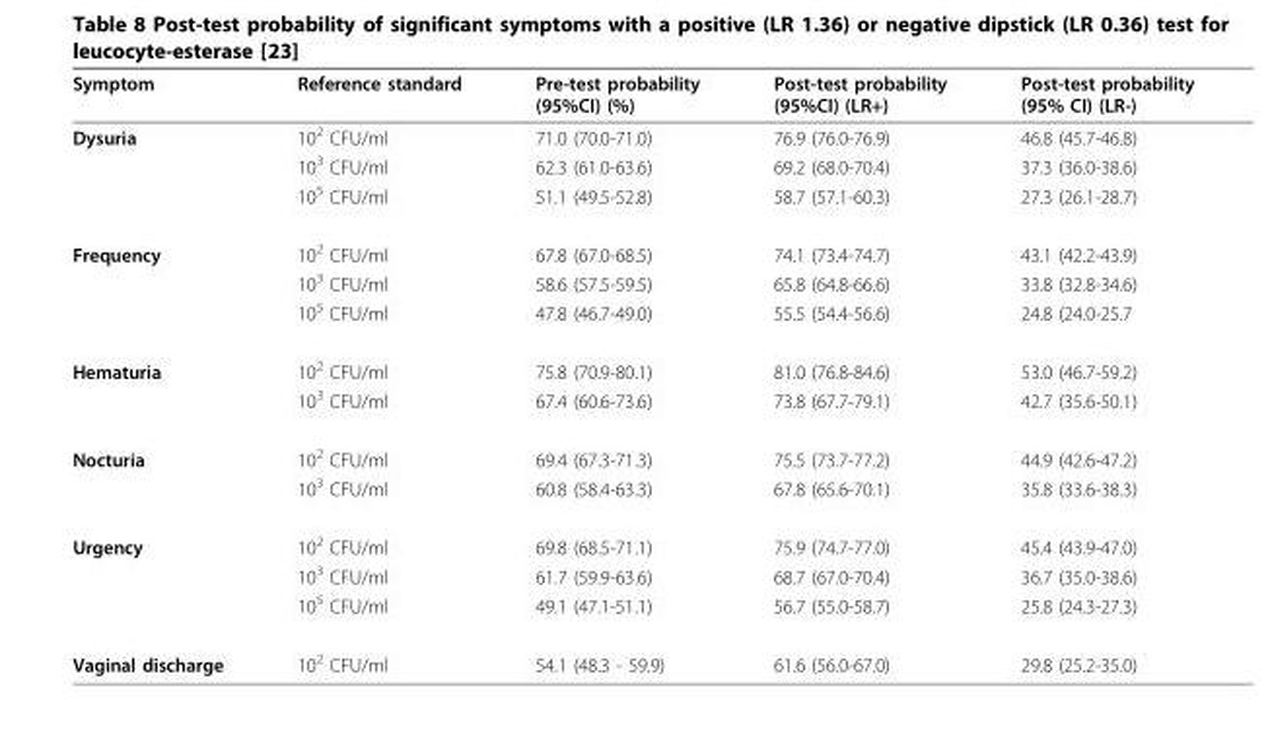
<table><thead><tr><td>Symptom</td><td>Reference standard</td><td>Pre-test probability (95%CI) (%)</td><td>Post-test probability (95%CI) (LR+)</td><td>Post-test probability (95% CI) (LR-)</td></tr></thead><tbody><tr><td rowspan="3">Dysuria</td><td>10<sup>2</sup> CFU/ml</td><td>71.0 (70.0-71.0)</td><td>76.9 (76.0-76.9)</td><td>46.8 (45.7-46.8)</td></tr><tr><td>10<sup>3</sup> CFU/ml</td><td>62.3 (61.0-63.6)</td><td>69.2 (68.0-70.4)</td><td>37.3 (36.0-38.6)</td></tr><tr><td>10<sup>5</sup> CFU/ml</td><td>51.1 (49.5-52.8)</td><td>58.7 (57.1-60.3)</td><td>27.3 (26.1-28.7)</td></tr><tr><td rowspan="3">Frequency</td><td>10<sup>2</sup> CFU/ml</td><td>67.8 (67.0-68.5)</td><td>74.1 (73.4-74.7)</td><td>43.1 (42.2-43.9)</td></tr><tr><td>10<sup>3</sup> CFU/ml</td><td>58.6 (57.5-59.5)</td><td>65.8 (64.8-66.6)</td><td>33.8 (32.8-34.6)</td></tr><tr><td>10<sup>5</sup> CFU/ml</td><td>47.8 (46.7-49.0)</td><td>55.5 (54.4-56.6)</td><td>24.8 (24.0-25.7</td></tr><tr><td rowspan="2">Hematuria</td><td>10<sup>2</sup> CFU/ml</td><td>75.8 (70.9-80.1)</td><td>81.0 (76.8-84.6)</td><td>53.0 (46.7-59.2)</td></tr><tr><td>10<sup>3</sup> CFU/ml</td><td>67.4 (60.6-73.6)</td><td>73.8 (67.7-79.1)</td><td>42.7 (35.6-50.1)</td></tr><tr><td rowspan="2">Nocturia</td><td>10<sup>2</sup> CFU/ml</td><td>69.4 (67.3-71.3)</td><td>75.5 (73.7-77.2)</td><td>44.9 (42.6-47.2)</td></tr><tr><td>10<sup>3</sup> CFU/ml</td><td>60.8 (58.4-63.3)</td><td>67.8 (65.6-70.1)</td><td>35.8 (33.6-38.3)</td></tr><tr><td rowspan="3">Urgency</td><td>10<sup>2</sup> CFU/ml</td><td>69.8 (68.5-71.1)</td><td>75.9 (74.7-77.0)</td><td>45.4 (43.9-47.0)</td></tr><tr><td>10<sup>3</sup> CFU/ml</td><td>61.7 (59.9-63.6)</td><td>68.7 (67.0-70.4)</td><td>36.7 (35.0-38.6)</td></tr><tr><td>10<sup>5</sup> CFU/ml</td><td>49.1 (47.1-51.1)</td><td>56.7 (55.0-58.7)</td><td>25.8 (24.3-27.3)</td></tr><tr><td>Vaginal discharge</td><td>10<sup>2</sup> CFU/ml</td><td>54.1 (48.3 - 59.9)</td><td>61.6 (56.0-67.0)</td><td>29.8 (25.2-35.0)</td></tr></tbody></table>